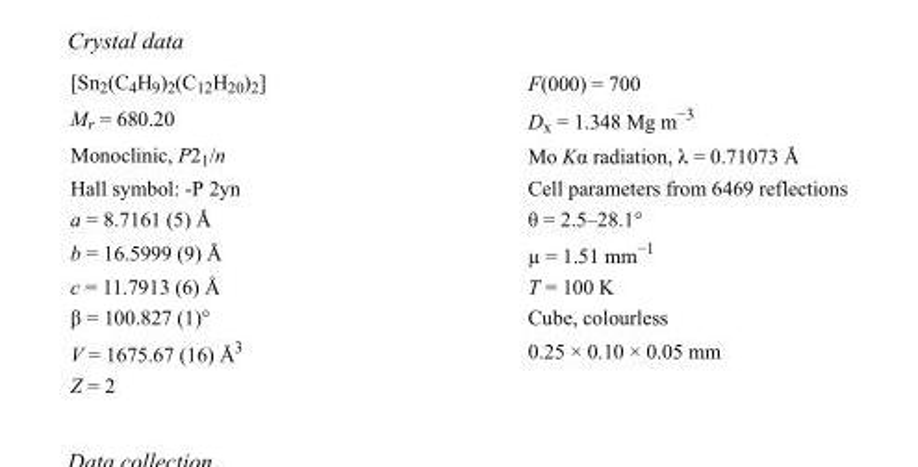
<table><tbody><tr><td>[Sn<sub>2</sub>(C<sub>4</sub>H<sub>9</sub>)<sub>2</sub>(C<sub>12</sub>H<sub>20</sub>)<sub>2</sub>]</td><td>F(000) = 700</td></tr><tr><td>M<sub>r</sub> = 680.20</td><td>D<sub>x</sub> = 1.348 Mg m<sup>−3</sup></td></tr><tr><td>Monoclinic, P2<sub>1</sub>/n</td><td>Mo Kα radiation, λ = 0.71073 Å</td></tr><tr><td>Hall symbol: -P 2yn</td><td>Cell parameters from 6469 reflections</td></tr><tr><td>a = 8.7161 (5) Å</td><td>θ = 2.5–28.1°</td></tr><tr><td>b = 16.5999 (9) Å</td><td>µ = 1.51 mm<sup>−1</sup></td></tr><tr><td>c = 11.7913 (6) Å</td><td>T = 100 K</td></tr><tr><td>β = 100.827 (1)°</td><td>Cube, colourless</td></tr><tr><td>V = 1675.67 (16) Å<sup>3</sup></td><td>0.25 × 0.10 × 0.05 mm</td></tr><tr><td>Z = 2</td><td></td></tr></tbody></table>